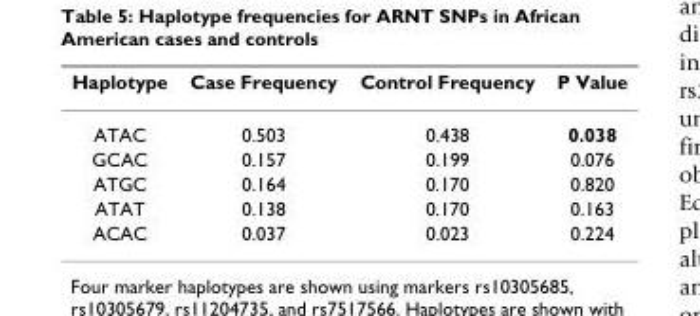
<table><thead><tr><td>Haplotype</td><td>Case Frequency</td><td>Control Frequency</td><td>P Value</td></tr></thead><tbody><tr><td>ATAC</td><td>0.503</td><td>0.438</td><td>0.038</td></tr><tr><td>GCAC</td><td>0.157</td><td>0.199</td><td>0.076</td></tr><tr><td>ATGC</td><td>0.164</td><td>0.170</td><td>0.820</td></tr><tr><td>ATAT</td><td>0.138</td><td>0.170</td><td>0.163</td></tr><tr><td>ACAC</td><td>0.037</td><td>0.023</td><td>0.224</td></tr></tbody></table>